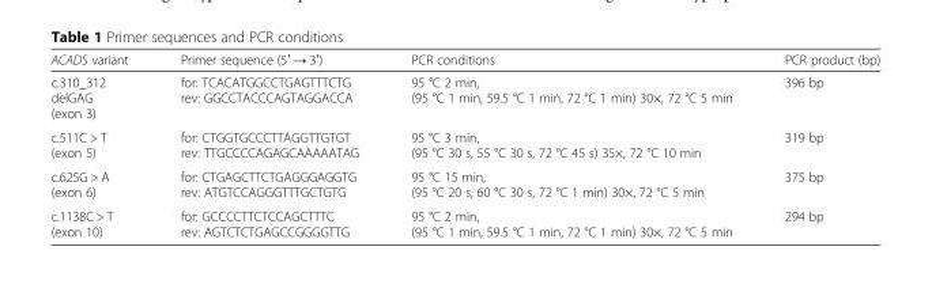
<table><thead><tr><td>ACADS variant</td><td>Primer sequence (5ʼ → 3ʼ)</td><td>PCR conditions</td><td>PCR product (bp)</td></tr></thead><tbody><tr><td>c.310_312 delGAG (exon 3)</td><td>for: TCACATGGCCTGAGTTTCTG rev: GGCCTACCCAGTAGGACCA</td><td>95 °C 2 min, (95 °C 1 min, 59.5 °C 1 min, 72 °C 1 min) 30×, 72 °C 5 min</td><td>396 bp</td></tr><tr><td>c.511C &gt; T (exon 5)</td><td>for: CTGGTGCCCTTAGGTTGTGT rev: TTGCCCCAGAGCAAAAATAG</td><td>95 °C 3 min, (95 °C 30 s, 55 °C 30 s, 72 °C 45 s) 35×, 72 °C 10 min</td><td>319 bp</td></tr><tr><td>c.625G &gt; A (exon 6)</td><td>for: CTGAGCTTCTGAGGGAGGTG rev: ATGTCCAGGGTTTGCTGTG</td><td>95 °C 15 min, (95 °C 20 s, 60 °C 30 s, 72 °C 1 min) 30×, 72 °C 5 min</td><td>375 bp</td></tr><tr><td>c.1138C &gt; T (exon 10)</td><td>for: GCCCCTTCTCCAGCTTTC rev: AGTCTCTGAGCCGGGGTTG</td><td>95 °C 2 min, (95 °C 1 min, 59.5 °C 1 min, 72 °C 1 min) 30×, 72 °C 5 min</td><td>294 bp</td></tr></tbody></table>